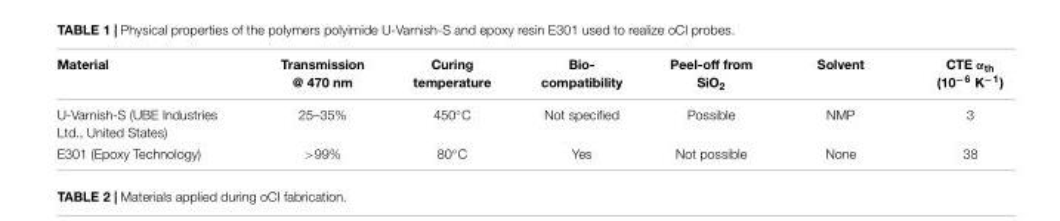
<table><thead><tr><td>Material</td><td>Transmission @ 470 nm</td><td>Curing temperature</td><td>Bio- compatibility</td><td>Peel-off from SiO<sub>2</sub></td><td>Solvent</td><td>CTE α<sub>th</sub> (10<sup>−6</sup> K<sup>−1</sup>)</td></tr></thead><tbody><tr><td>U-Varnish-S (UBE Industries Ltd., United States)</td><td>25–35%</td><td>450◦C</td><td>Not specified</td><td>Possible</td><td>NMP</td><td>3</td></tr><tr><td>E301 (Epoxy Technology)</td><td>&gt;99%</td><td>80◦C</td><td>Yes</td><td>Not possible</td><td>None</td><td>38</td></tr></tbody></table>